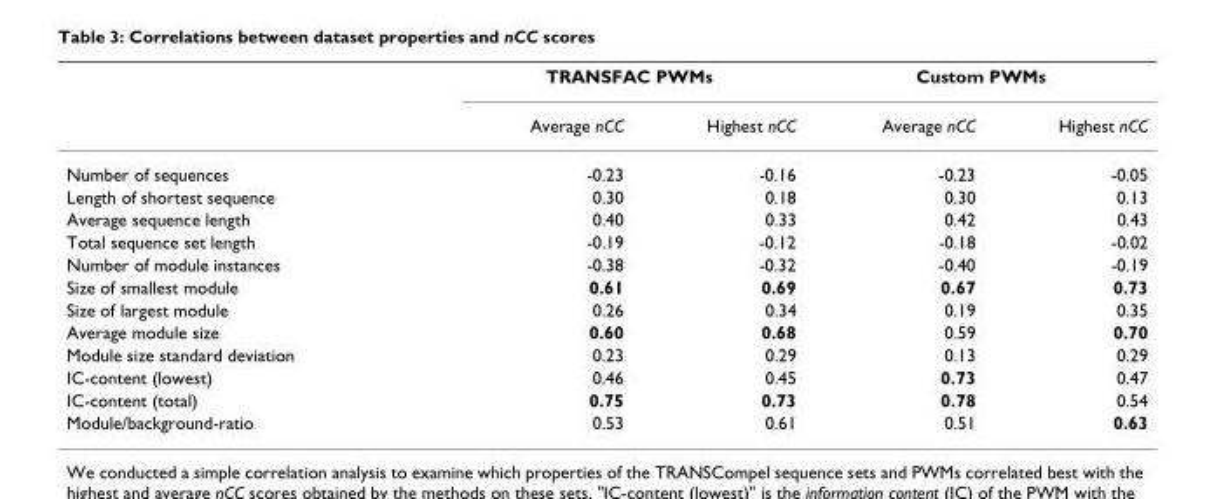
<table><thead><tr><td rowspan="2"></td><td colspan="2">TRANSFAC PWMs</td><td colspan="2">Custom PWMs</td></tr><tr><td>Average nCC</td><td>Highest nCC</td><td>Average nCC</td><td>Highest nCC</td></tr></thead><tbody><tr><td>Number of sequences</td><td>-0.23</td><td>-0.16</td><td>-0.23</td><td>-0.05</td></tr><tr><td>Length of shortest sequence</td><td>0.30</td><td>0.18</td><td>0.30</td><td>0.13</td></tr><tr><td>Average sequence length</td><td>0.40</td><td>0.33</td><td>0.42</td><td>0.43</td></tr><tr><td>Total sequence set length</td><td>-0.19</td><td>-0.12</td><td>-0.18</td><td>-0.02</td></tr><tr><td>Number of module instances</td><td>-0.38</td><td>-0.32</td><td>-0.40</td><td>-0.19</td></tr><tr><td>Size of smallest module</td><td>0.61</td><td>0.69</td><td>0.67</td><td>0.73</td></tr><tr><td>Size of largest module</td><td>0.26</td><td>0.34</td><td>0.19</td><td>0.35</td></tr><tr><td>Average module size</td><td>0.60</td><td>0.68</td><td>0.59</td><td>0.70</td></tr><tr><td>Module size standard deviation</td><td>0.23</td><td>0.29</td><td>0.13</td><td>0.29</td></tr><tr><td>IC-content (lowest)</td><td>0.46</td><td>0.45</td><td>0.73</td><td>0.47</td></tr><tr><td>IC-content (total)</td><td>0.75</td><td>0.73</td><td>0.78</td><td>0.54</td></tr><tr><td>Module/background-ratio</td><td>0.53</td><td>0.61</td><td>0.51</td><td>0.63</td></tr></tbody></table>